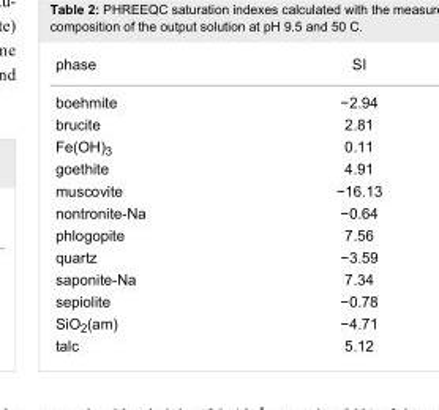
<table><tbody><tr><td>phase</td><td>SI</td></tr><tr><td>boehmite</td><td>−2.94</td></tr><tr><td>brucite</td><td>2.81</td></tr><tr><td>Fe(OH)<sub>3</sub></td><td>0.11</td></tr><tr><td>goethite</td><td>4.91</td></tr><tr><td>muscovite</td><td>−16.13</td></tr><tr><td>nontronite-Na</td><td>−0.64</td></tr><tr><td>phlogopite</td><td>7.56</td></tr><tr><td>quartz</td><td>−3.59</td></tr><tr><td>saponite-Na</td><td>7.34</td></tr><tr><td>sepiolite</td><td>−0.78</td></tr><tr><td>SiO<sub>2</sub>(am)</td><td>−4.71</td></tr><tr><td>talc</td><td>5.12</td></tr></tbody></table>